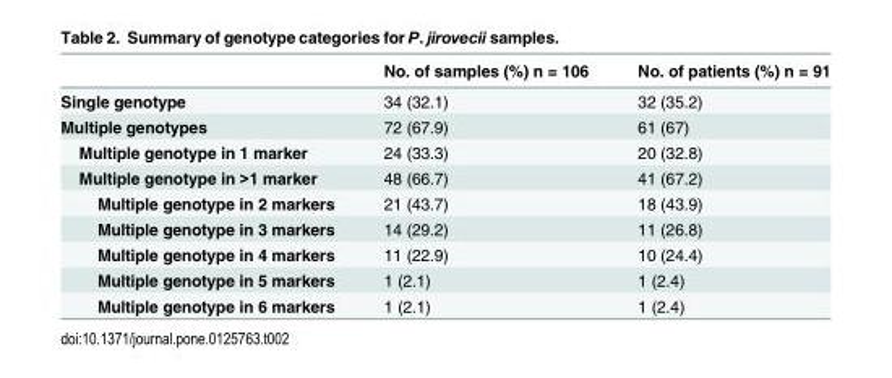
<table><thead><tr><td></td><td>No. of samples (%) n = 106</td><td>No. of patients (%) n = 91</td></tr></thead><tbody><tr><td>Single genotype</td><td>34 (32.1)</td><td>32 (35.2)</td></tr><tr><td>Multiple genotypes</td><td>72 (67.9)</td><td>61 (67)</td></tr><tr><td>Multiple genotype in 1 marker</td><td>24 (33.3)</td><td>20 (32.8)</td></tr><tr><td>Multiple genotype in &gt;1 marker</td><td>48 (66.7)</td><td>41 (67.2)</td></tr><tr><td>Multiple genotype in 2 markers</td><td>21 (43.7)</td><td>18 (43.9)</td></tr><tr><td>Multiple genotype in 3 markers</td><td>14 (29.2)</td><td>11 (26.8)</td></tr><tr><td>Multiple genotype in 4 markers</td><td>11 (22.9)</td><td>10 (24.4)</td></tr><tr><td>Multiple genotype in 5 markers</td><td>1 (2.1)</td><td>1 (2.4)</td></tr><tr><td>Multiple genotype in 6 markers</td><td>1 (2.1)</td><td>1 (2.4)</td></tr></tbody></table>